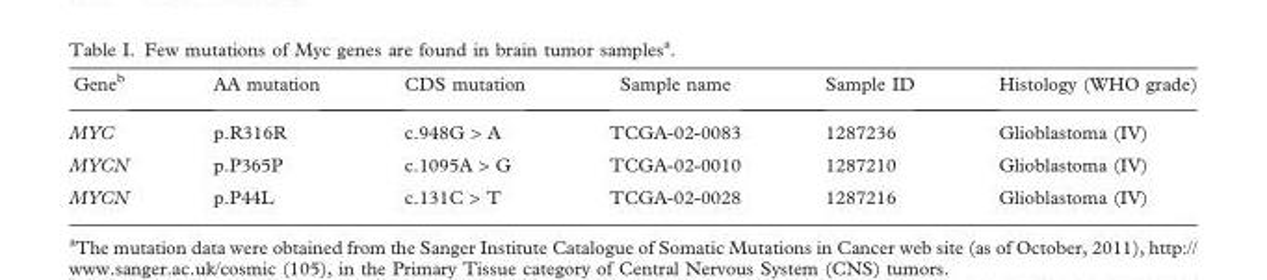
<table><thead><tr><td>Gene<sup>b</sup></td><td>AA mutation</td><td>CDS mutation</td><td>Sample name</td><td>Sample ID</td><td>Histology (WHO grade)</td></tr></thead><tbody><tr><td>MYC</td><td>p.R316R</td><td>c.948G &gt; A</td><td>TCGA-02-0083</td><td>1287236</td><td>Glioblastoma (IV)</td></tr><tr><td>MYCN</td><td>p.P365P</td><td>c.1095A &gt; G</td><td>TCGA-02-0010</td><td>1287210</td><td>Glioblastoma (IV)</td></tr><tr><td>MYCN</td><td>p.P44L</td><td>c.131C &gt; T</td><td>TCGA-02-0028</td><td>1287216</td><td>Glioblastoma (IV)</td></tr></tbody></table>